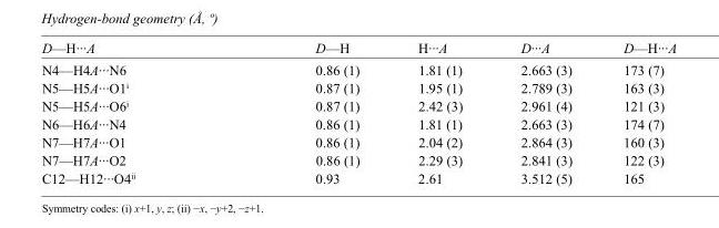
<table><tbody><tr><td>D—H···A</td><td>D—H</td><td>H···A</td><td>D···A</td><td>D—H···A</td></tr><tr><td>N4—H4A···N6</td><td>0.86 (1)</td><td>1.81 (1)</td><td>2.663 (3)</td><td>173 (7)</td></tr><tr><td>N5—H5A···O1<sup>i</sup></td><td>0.87 (1)</td><td>1.95 (1)</td><td>2.789 (3)</td><td>163 (3)</td></tr><tr><td>N5—H5A···O6<sup>i</sup></td><td>0.87 (1)</td><td>2.42 (3)</td><td>2.961 (4)</td><td>121 (3)</td></tr><tr><td>N6—H6A···N4</td><td>0.86 (1)</td><td>1.81 (1)</td><td>2.663 (3)</td><td>174 (7)</td></tr><tr><td>N7—H7A···O1</td><td>0.86 (1)</td><td>2.04 (2)</td><td>2.864 (3)</td><td>160 (3)</td></tr><tr><td>N7—H7A···O2</td><td>0.86 (1)</td><td>2.29 (3)</td><td>2.841 (3)</td><td>122 (3)</td></tr><tr><td>C12—H12···O4<sup>ii</sup></td><td>0.93</td><td>2.61</td><td>3.512 (5)</td><td>165</td></tr></tbody></table>